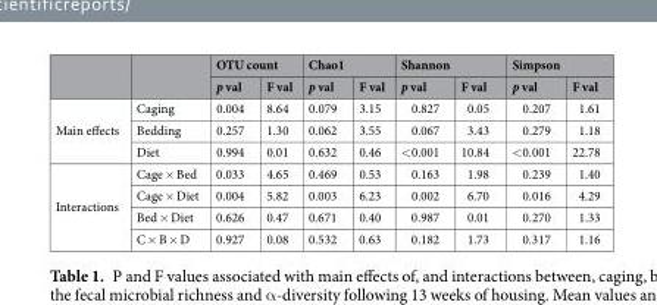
<table><thead><tr><td rowspan="2"></td><td rowspan="2"></td><td colspan="2">OTU count</td><td colspan="2">Chao1</td><td colspan="2">Shannon</td><td colspan="2">Simpson</td></tr><tr><td>p val</td><td>F val</td><td>p val</td><td>F val</td><td>p val</td><td>F val</td><td>p val</td><td>F val</td></tr></thead><tbody><tr><td rowspan="3">Main effects</td><td>Caging</td><td>0.004</td><td>8.64</td><td>0.079</td><td>3.15</td><td>0.827</td><td>0.05</td><td>0.207</td><td>1.61</td></tr><tr><td>Bedding</td><td>0.257</td><td>1.30</td><td>0.062</td><td>3.55</td><td>0.067</td><td>3.43</td><td>0.279</td><td>1.18</td></tr><tr><td>Diet</td><td>0.994</td><td>0.01</td><td>0.632</td><td>0.46</td><td>&lt;0.001</td><td>10.84</td><td>&lt;0.001</td><td>22.78</td></tr><tr><td rowspan="4">Interactions</td><td>Cage × Bed</td><td>0.033</td><td>4.65</td><td>0.469</td><td>0.53</td><td>0.163</td><td>1.98</td><td>0.239</td><td>1.40</td></tr><tr><td>Cage × Diet</td><td>0.004</td><td>5.82</td><td>0.003</td><td>6.23</td><td>0.002</td><td>6.70</td><td>0.016</td><td>4.29</td></tr><tr><td>Bed × Diet</td><td>0.626</td><td>0.47</td><td>0.671</td><td>0.40</td><td>0.987</td><td>0.01</td><td>0.270</td><td>1.33</td></tr><tr><td>C × B × D</td><td>0.927</td><td>0.08</td><td>0.532</td><td>0.63</td><td>0.182</td><td>1.73</td><td>0.317</td><td>1.16</td></tr></tbody></table>